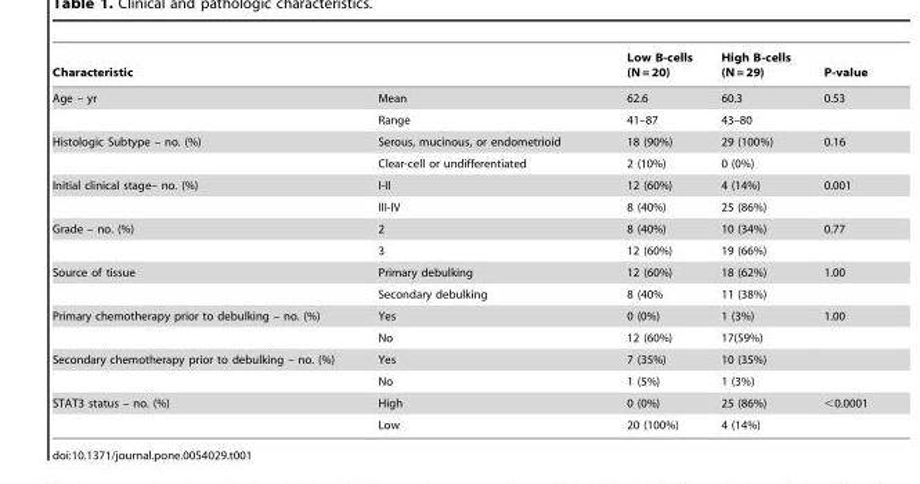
<table><thead><tr><td>Characteristic</td><td></td><td>Low B-cells (N = 20)</td><td>High B-cells (N = 29)</td><td>P-value</td></tr></thead><tbody><tr><td rowspan="2">Age – yr</td><td>Mean</td><td>62.6</td><td>60.3</td><td>0.53</td></tr><tr><td>Range</td><td>41–87</td><td>43–80</td><td></td></tr><tr><td rowspan="2">Histologic Subtype – no. (%)</td><td>Serous, mucinous, or endometrioid</td><td>18 (90%)</td><td>29 (100%)</td><td>0.16</td></tr><tr><td>Clear-cell or undifferentiated</td><td>2 (10%)</td><td>0 (0%)</td><td></td></tr><tr><td rowspan="2">Initial clinical stage– no. (%)</td><td>I-II</td><td>12 (60%)</td><td>4 (14%)</td><td>0.001</td></tr><tr><td>III-IV</td><td>8 (40%)</td><td>25 (86%)</td><td></td></tr><tr><td rowspan="2">Grade – no. (%)</td><td>2</td><td>8 (40%)</td><td>10 (34%)</td><td>0.77</td></tr><tr><td>3</td><td>12 (60%)</td><td>19 (66%)</td><td></td></tr><tr><td rowspan="2">Source of tissue</td><td>Primary debulking</td><td>12 (60%)</td><td>18 (62%)</td><td>1.00</td></tr><tr><td>Secondary debulking</td><td>8 (40%</td><td>11 (38%)</td><td></td></tr><tr><td rowspan="2">Primary chemotherapy prior to debulking – no. (%)</td><td>Yes</td><td>0 (0%)</td><td>1 (3%)</td><td>1.00</td></tr><tr><td>No</td><td>12 (60%)</td><td>17(59%)</td><td></td></tr><tr><td rowspan="2">Secondary chemotherapy prior to debulking – no. (%)</td><td>Yes</td><td>7 (35%)</td><td>10 (35%)</td><td></td></tr><tr><td>No</td><td>1 (5%)</td><td>1 (3%)</td><td></td></tr><tr><td rowspan="2">STAT3 status – no. (%)</td><td>High</td><td>0 (0%)</td><td>25 (86%)</td><td>&lt;0.0001</td></tr><tr><td>Low</td><td>20 (100%)</td><td>4 (14%)</td><td></td></tr></tbody></table>